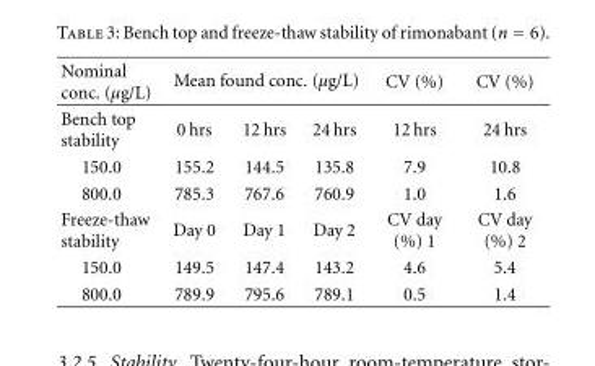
<table><thead><tr><td rowspan="2">Nominal conc. (µg/L) Bench top stability</td><td colspan="3">Mean found conc. (µg/L)</td><td rowspan="2">CV (%) 12 hrs</td><td rowspan="2">CV (%) 24 hrs</td></tr><tr><td>0 hrs</td><td>12 hrs</td><td>24 hrs</td></tr></thead><tbody><tr><td>150.0</td><td>155.2</td><td>144.5</td><td>135.8</td><td>7.9</td><td>10.8</td></tr><tr><td>800.0</td><td>785.3</td><td>767.6</td><td>760.9</td><td>1.0</td><td>1.6</td></tr><tr><td>Freeze-thaw stability</td><td>Day 0</td><td>Day 1</td><td>Day 2</td><td>CV day (%) 1</td><td>CV day (%) 2</td></tr><tr><td>150.0</td><td>149.5</td><td>147.4</td><td>143.2</td><td>4.6</td><td>5.4</td></tr><tr><td>800.0</td><td>789.9</td><td>795.6</td><td>789.1</td><td>0.5</td><td>1.4</td></tr></tbody></table>